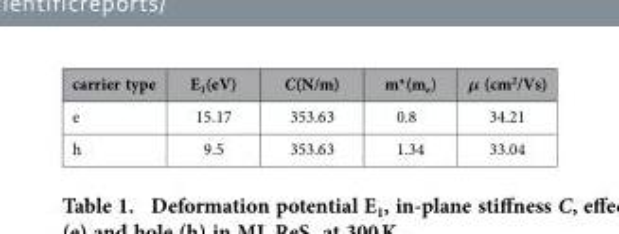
<table><thead><tr><td>carrier type</td><td>E<sub>1</sub>(eV)</td><td>C(N/m)</td><td>m*(m<sub>e</sub>)</td><td>μ (cm<sup>2</sup>/Vs)</td></tr></thead><tbody><tr><td>e</td><td>15.17</td><td>353.63</td><td>0.8</td><td>34.21</td></tr><tr><td>h</td><td>9.5</td><td>353.63</td><td>1.34</td><td>33.04</td></tr></tbody></table>